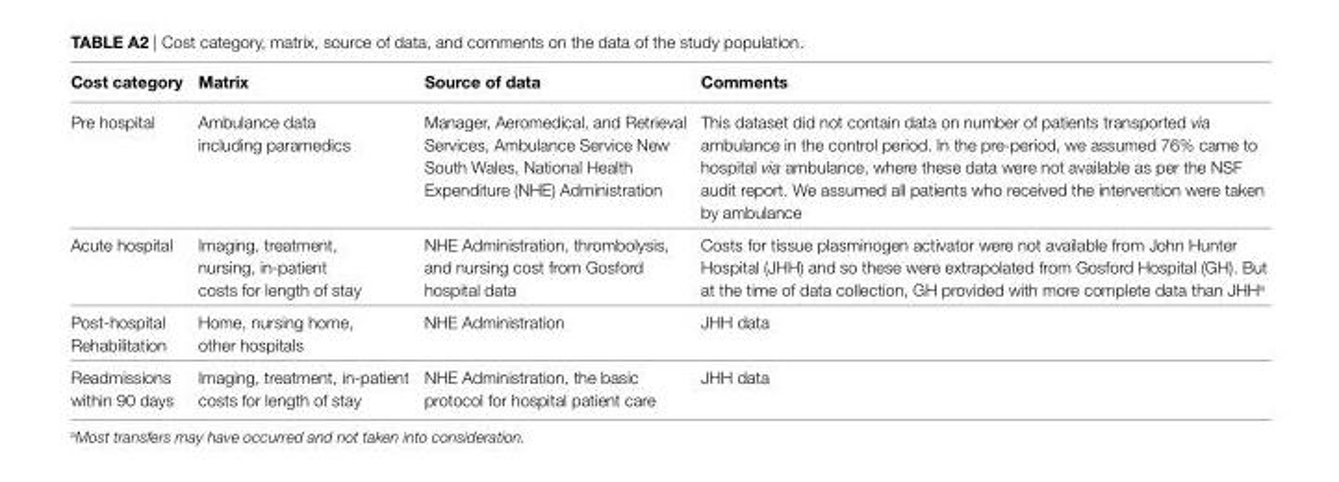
<table><thead><tr><td>cost category</td><td>Matrix</td><td>source of data</td><td>comments</td></tr></thead><tbody><tr><td>Pre hospital</td><td>Ambulance data including paramedics</td><td>Manager, Aeromedical, and Retrieval Services, Ambulance Service New South Wales, National Health Expenditure (NHE) Administration</td><td>This dataset did not contain data on number of patients transported via ambulance in the control period. In the pre-period, we assumed 76% came to hospital via ambulance, where these data were not available as per the NSF audit report. We assumed all patients who received the intervention were taken by ambulance</td></tr><tr><td>Acute hospital</td><td>Imaging, treatment, nursing, in-patient costs for length of stay</td><td>NHE Administration, thrombolysis, and nursing cost from Gosford hospital data</td><td>Costs for tissue plasminogen activator were not available from John Hunter Hospital (JHH) and so these were extrapolated from Gosford Hospital (GH). But at the time of data collection, GH provided with more complete data than JHH<sup>a</sup></td></tr><tr><td>Post-hospital Rehabilitation</td><td>Home, nursing home, other hospitals</td><td>NHE Administration</td><td>JHH data</td></tr><tr><td>Readmissions within 90 days</td><td>Imaging, treatment, in-patient costs for length of stay</td><td>NHE Administration, the basic protocol for hospital patient care</td><td>JHH data</td></tr></tbody></table>